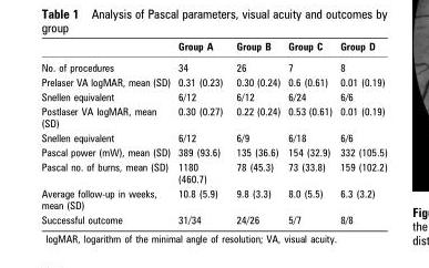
<table><thead><tr><td></td><td>Group A</td><td>Group B</td><td>Group C</td><td>Group D</td></tr></thead><tbody><tr><td>No. of procedures</td><td>34</td><td>26</td><td>7</td><td>8</td></tr><tr><td>Prelaser VA logMAR, mean (SD)</td><td>0.31 (0.23)</td><td>0.30 (0.24)</td><td>0.6 (0.61)</td><td>0.01 (0.19)</td></tr><tr><td>Snellen equivalent</td><td>6/12</td><td>6/12</td><td>6/24</td><td>6/6</td></tr><tr><td>Postlaser VA logMAR, mean (SD)</td><td>0.30 (0.27)</td><td>0.22 (0.24)</td><td>0.53 (0.61)</td><td>0.01 (0.19)</td></tr><tr><td>Snellen equivalent</td><td>6/12</td><td>6/9</td><td>6/18</td><td>6/6</td></tr><tr><td>Pascal power (mW), mean (SD)</td><td>389 (93.6)</td><td>135 (36.6)</td><td>154 (32.9)</td><td>332 (105.5)</td></tr><tr><td>Pascal no. of burns, mean (SD)</td><td>1180 (460.7)</td><td>78 (45.3)</td><td>73 (33.8)</td><td>159 (102.2)</td></tr><tr><td>Average follow-up in weeks, mean (SD)</td><td>10.8 (5.9)</td><td>9.8 (3.3)</td><td>8.0 (5.5)</td><td>6.3 (3.2)</td></tr><tr><td>Successful outcome</td><td>31/34</td><td>24/26</td><td>5/7</td><td>8/8</td></tr></tbody></table>